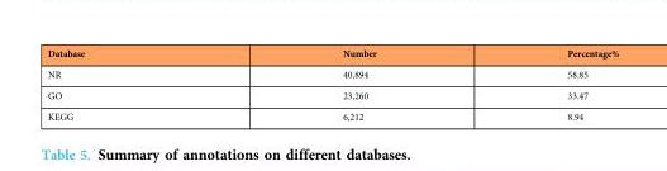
<table><thead><tr><td>Database</td><td>Number</td><td>Percentage%</td></tr></thead><tbody><tr><td>NR</td><td>40,894</td><td>58.85</td></tr><tr><td>GO</td><td>23,260</td><td>33.47</td></tr><tr><td>KEGG</td><td>6,212</td><td>8.94</td></tr></tbody></table>